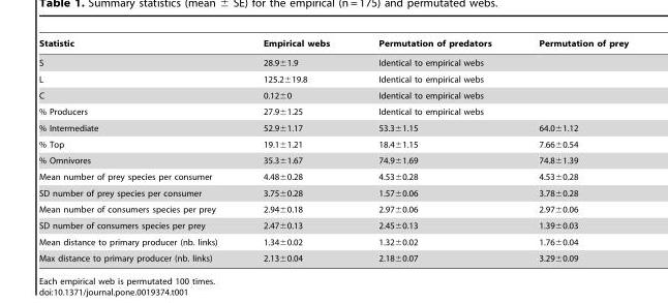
<table><thead><tr><td>Statistic</td><td>Empirical webs</td><td>Permutation of predators</td><td>Permutation of prey</td></tr></thead><tbody><tr><td>S</td><td>28.9±1.9</td><td colspan="2">Identical to empirical webs</td></tr><tr><td>L</td><td>125.2±19.8</td><td colspan="2">Identical to empirical webs</td></tr><tr><td>C</td><td>0.12±0</td><td colspan="2">Identical to empirical webs</td></tr><tr><td>% Producers</td><td>27.9±1.25</td><td colspan="2">Identical to empirical webs</td></tr><tr><td>% Intermediate</td><td>52.9±1.17</td><td>53.3±1.15</td><td>64.0±1.12</td></tr><tr><td>% Top</td><td>19.1±1.21</td><td>18.4±1.15</td><td>7.66±0.54</td></tr><tr><td>% Omnivores</td><td>35.3±1.67</td><td>74.9±1.69</td><td>74.8±1.39</td></tr><tr><td>Mean number of prey species per consumer</td><td>4.48±0.28</td><td>4.53±0.28</td><td>4.53±0.28</td></tr><tr><td>SD number of prey species per consumer</td><td>3.75±0.28</td><td>1.57±0.06</td><td>3.78±0.28</td></tr><tr><td>Mean number of consumers species per prey</td><td>2.94±0.18</td><td>2.97±0.06</td><td>2.97±0.06</td></tr><tr><td>SD number of consumers species per prey</td><td>2.47±0.13</td><td>2.45±0.13</td><td>1.39±0.03</td></tr><tr><td>Mean distance to primary producer (nb. links)</td><td>1.34±0.02</td><td>1.32±0.02</td><td>1.76±0.04</td></tr><tr><td>Max distance to primary producer (nb. links)</td><td>2.13±0.04</td><td>2.18±0.07</td><td>3.29±0.09</td></tr></tbody></table>